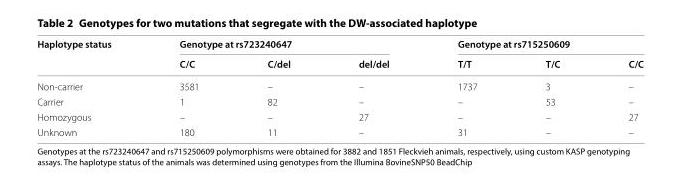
<table><thead><tr><td rowspan="2">Haplotype status</td><td colspan="3">Genotype at rs723240647</td><td colspan="3">Genotype at rs715250609</td></tr><tr><td>C/C</td><td>C/del</td><td>del/del</td><td>T/T</td><td>T/C</td><td>C/C</td></tr></thead><tbody><tr><td>Non‑carrier</td><td>3581</td><td>–</td><td>–</td><td>1737</td><td>3</td><td>–</td></tr><tr><td>Carrier</td><td>1</td><td>82</td><td>–</td><td>–</td><td>53</td><td>–</td></tr><tr><td>Homozygous</td><td>–</td><td>–</td><td>27</td><td>–</td><td>–</td><td>27</td></tr><tr><td>Unknown</td><td>180</td><td>11</td><td>–</td><td>31</td><td>–</td><td>–</td></tr></tbody></table>